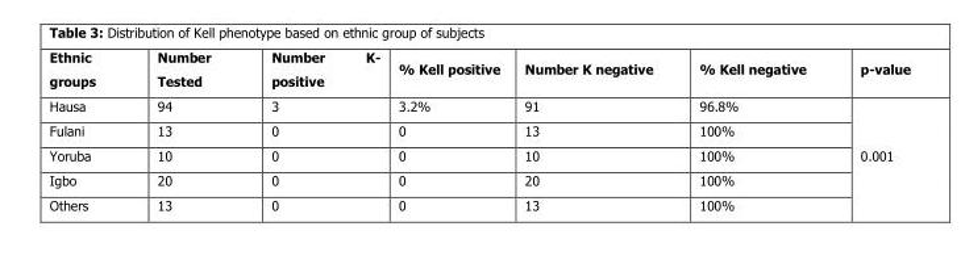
<table><thead><tr><td>Ethnic groups</td><td>Number Tested</td><td>Number K- positive</td><td>% Kell positive</td><td>Number K negative</td><td>% Kell negative</td><td>p-value</td></tr></thead><tbody><tr><td>Hausa</td><td>94</td><td>3</td><td>3.2%</td><td>91</td><td>96.8%</td><td rowspan="5">0.001</td></tr><tr><td>Fulani</td><td>13</td><td>0</td><td>0</td><td>13</td><td>100%</td></tr><tr><td>Yoruba</td><td>10</td><td>0</td><td>0</td><td>10</td><td>100%</td></tr><tr><td>Igbo</td><td>20</td><td>0</td><td>0</td><td>20</td><td>100%</td></tr><tr><td>Others</td><td>13</td><td>0</td><td>0</td><td>13</td><td>100%</td></tr></tbody></table>